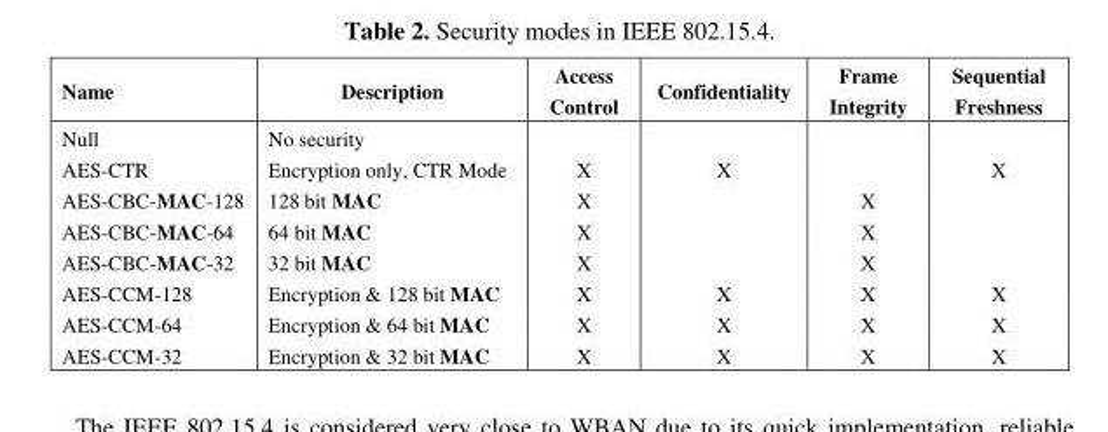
<table><thead><tr><td>Name</td><td>Description</td><td>Access Control</td><td>Confidentiality</td><td>Frame Integrity</td><td>Sequential Freshness</td></tr></thead><tbody><tr><td>Null</td><td>No security</td><td></td><td></td><td></td><td></td></tr><tr><td>AES-CTR</td><td>Encryption only, CTR Mode</td><td>X</td><td>X</td><td></td><td>X</td></tr><tr><td>AES-CBC-MAC-128</td><td>128 bit MAC</td><td>X</td><td></td><td>X</td><td></td></tr><tr><td>AES-CBC-MAC-64</td><td>64 bit MAC</td><td>X</td><td></td><td>X</td><td></td></tr><tr><td>AES-CBC-MAC-32</td><td>32 bit MAC</td><td>X</td><td></td><td>X</td><td></td></tr><tr><td>AES-CCM-128</td><td>Encryption &amp; 128 bit MAC</td><td>X</td><td>X</td><td>X</td><td>X</td></tr><tr><td>AES-CCM-64</td><td>Encryption &amp; 64 bit MAC</td><td>X</td><td>X</td><td>X</td><td>X</td></tr><tr><td>AES-CCM-32</td><td>Encryption &amp; 32 bit MAC</td><td>X</td><td>X</td><td>X</td><td>X</td></tr></tbody></table>